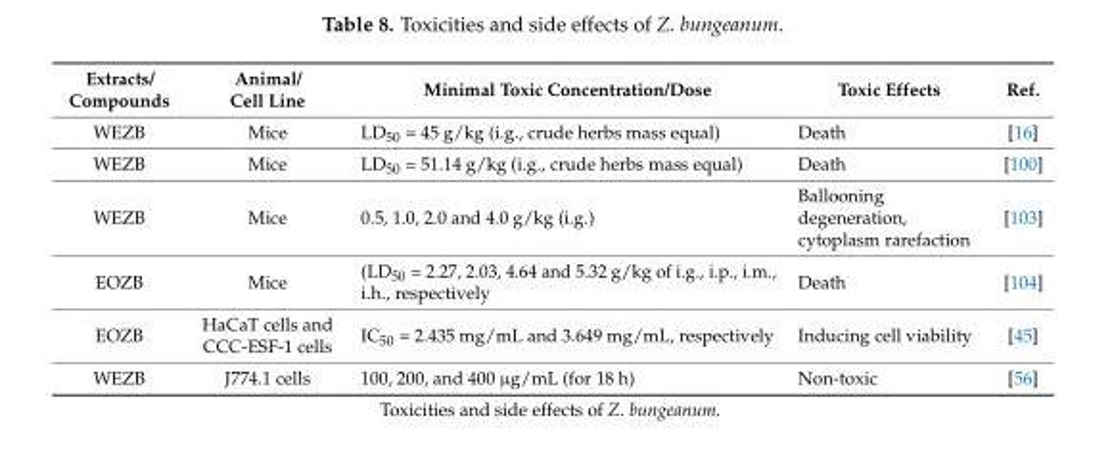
<table><thead><tr><td>Extracts/ Compounds</td><td>Animal/ Cell Line</td><td>Minimal Toxic Concentration/Dose</td><td>Toxic Effects</td><td>Ref.</td></tr></thead><tbody><tr><td>WEZB</td><td>Mice</td><td>LD<sub>50</sub> = 45 g/kg (i.g., crude herbs mass equal)</td><td>Death</td><td>[16]</td></tr><tr><td>WEZB</td><td>Mice</td><td>LD<sub>50</sub> = 51.14 g/kg (i.g., crude herbs mass equal)</td><td>Death</td><td>[100]</td></tr><tr><td>WEZB</td><td>Mice</td><td>0.5, 1.0, 2.0 and 4.0 g/kg (i.g.)</td><td>Ballooning degeneration, cytoplasm rarefaction</td><td>[103]</td></tr><tr><td>EOZB</td><td>Mice</td><td>(LD<sub>50</sub> = 2.27, 2.03, 4.64 and 5.32 g/kg of i.g., i.p., i.m., i.h., respectively</td><td>Death</td><td>[104]</td></tr><tr><td>EOZB</td><td>HaCaT cells and CCC-ESF-1 cells</td><td>IC<sub>50</sub> = 2.435 mg/mL and 3.649 mg/mL, respectively</td><td>Inducing cell viability</td><td>[45]</td></tr><tr><td>WEZB</td><td>J774.1 cells</td><td>100, 200, and 400 µg/mL (for 18 h)</td><td>Non-toxic</td><td>[56]</td></tr></tbody></table>